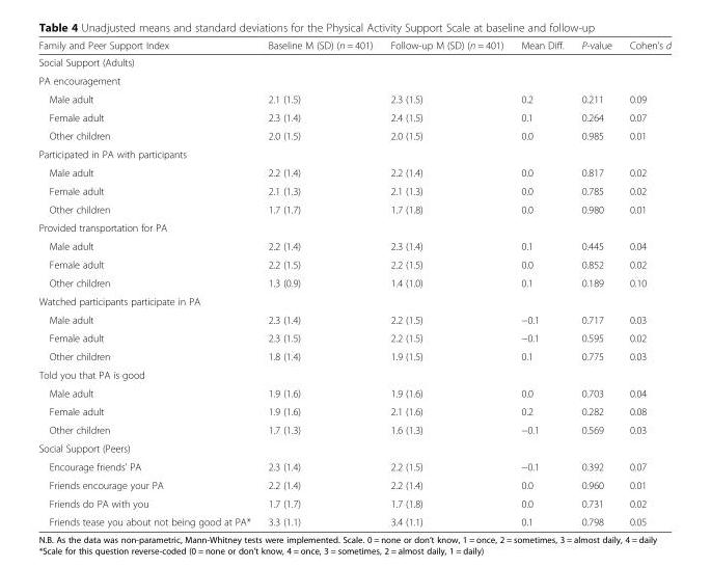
<table><thead><tr><td>Family and Peer Support Index</td><td>Baseline M (SD) (n = 401)</td><td>Follow-up M (SD) (n = 401)</td><td>Mean Diff.</td><td>P-value</td><td>Cohen’s d</td></tr></thead><tbody><tr><td colspan="6">Social Support (Adults)</td></tr><tr><td colspan="6">PA encouragement</td></tr><tr><td>Male adult</td><td>2.1 (1.5)</td><td>2.3 (1.5)</td><td>0.2</td><td>0.211</td><td>0.09</td></tr><tr><td>Female adult</td><td>2.3 (1.4)</td><td>2.4 (1.5)</td><td>0.1</td><td>0.264</td><td>0.07</td></tr><tr><td>Other children</td><td>2.0 (1.5)</td><td>2.0 (1.5)</td><td>0.0</td><td>0.985</td><td>0.01</td></tr><tr><td colspan="6">Participated in PA with participants</td></tr><tr><td>Male adult</td><td>2.2 (1.4)</td><td>2.2 (1.4)</td><td>0.0</td><td>0.817</td><td>0.02</td></tr><tr><td>Female adult</td><td>2.1 (1.3)</td><td>2.1 (1.3)</td><td>0.0</td><td>0.785</td><td>0.02</td></tr><tr><td>Other children</td><td>1.7 (1.7)</td><td>1.7 (1.8)</td><td>0.0</td><td>0.980</td><td>0.01</td></tr><tr><td colspan="6">Provided transportation for PA</td></tr><tr><td>Male adult</td><td>2.2 (1.4)</td><td>2.3 (1.4)</td><td>0.1</td><td>0.445</td><td>0.04</td></tr><tr><td>Female adult</td><td>2.2 (1.5)</td><td>2.2 (1.5)</td><td>0.0</td><td>0.852</td><td>0.02</td></tr><tr><td>Other children</td><td>1.3 (0.9)</td><td>1.4 (1.0)</td><td>0.1</td><td>0.189</td><td>0.10</td></tr><tr><td colspan="6">Watched participants participate in PA</td></tr><tr><td>Male adult</td><td>2.3 (1.4)</td><td>2.2 (1.5)</td><td>−0.1</td><td>0.717</td><td>0.03</td></tr><tr><td>Female adult</td><td>2.3 (1.5)</td><td>2.2 (1.5)</td><td>−0.1</td><td>0.595</td><td>0.02</td></tr><tr><td>Other children</td><td>1.8 (1.4)</td><td>1.9 (1.5)</td><td>0.1</td><td>0.775</td><td>0.03</td></tr><tr><td colspan="6">Told you that PA is good</td></tr><tr><td>Male adult</td><td>1.9 (1.6)</td><td>1.9 (1.6)</td><td>0.0</td><td>0.703</td><td>0.04</td></tr><tr><td>Female adult</td><td>1.9 (1.6)</td><td>2.1 (1.6)</td><td>0.2</td><td>0.282</td><td>0.08</td></tr><tr><td>Other children</td><td>1.7 (1.3)</td><td>1.6 (1.3)</td><td>−0.1</td><td>0.569</td><td>0.03</td></tr><tr><td colspan="6">Social Support (Peers)</td></tr><tr><td>Encourage friends’ PA</td><td>2.3 (1.4)</td><td>2.2 (1.5)</td><td>−0.1</td><td>0.392</td><td>0.07</td></tr><tr><td>Friends encourage your PA</td><td>2.2 (1.4)</td><td>2.2 (1.4)</td><td>0.0</td><td>0.960</td><td>0.01</td></tr><tr><td>Friends do PA with you</td><td>1.7 (1.7)</td><td>1.7 (1.8)</td><td>0.0</td><td>0.731</td><td>0.02</td></tr><tr><td>Friends tease you about not being good at PA*</td><td>3.3 (1.1)</td><td>3.4 (1.1)</td><td>0.1</td><td>0.798</td><td>0.05</td></tr></tbody></table>